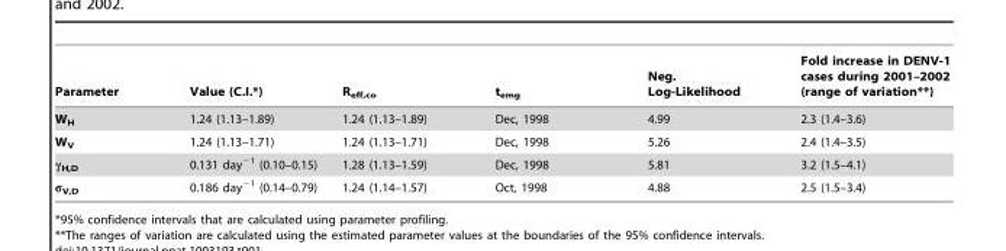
<table><thead><tr><td>Parameter</td><td>Value (C.I.*)</td><td>R<sub>eff,co</sub></td><td>t<sub>emg</sub></td><td>Neg. Log-Likelihood</td><td>Fold increase in DENV-1 cases during 2001–2002 (range of variation**)</td></tr></thead><tbody><tr><td>W<sub>H</sub></td><td>1.24 (1.13–1.89)</td><td>1.24 (1.13–1.89)</td><td>Dec, 1998</td><td>4.99</td><td>2.3 (1.4–3.6)</td></tr><tr><td>W<sub>V</sub></td><td>1.24 (1.13–1.71)</td><td>1.24 (1.13–1.71)</td><td>Dec, 1998</td><td>5.26</td><td>2.4 (1.4–3.5)</td></tr><tr><td>γ<sub>H,D</sub></td><td>0.131 day<sup>−1</sup> (0.10–0.15)</td><td>1.28 (1.13–1.59)</td><td>Dec, 1998</td><td>5.81</td><td>3.2 (1.5–4.1)</td></tr><tr><td>σ<sub>V,D</sub></td><td>0.186 day<sup>−1</sup> (0.14–0.79)</td><td>1.24 (1.14–1.57)</td><td>Oct, 1998</td><td>4.88</td><td>2.5 (1.5–3.4)</td></tr></tbody></table>